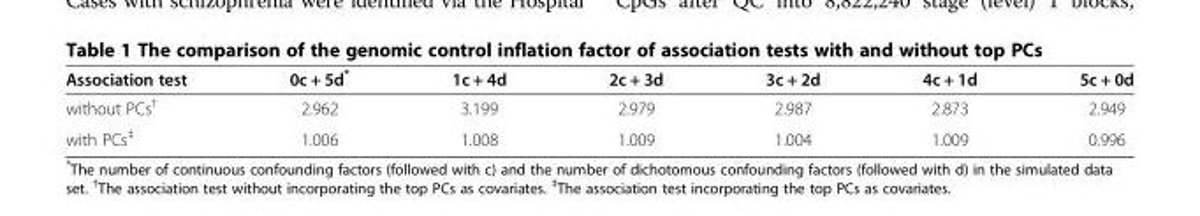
<table><thead><tr><td>Association test</td><td>0c + 5d*</td><td>1c + 4d</td><td>2c + 3d</td><td>3c + 2d</td><td>4c + 1d</td><td>5c + 0d</td></tr></thead><tbody><tr><td>without PCs<sup>†</sup></td><td>2.962</td><td>3.199</td><td>2.979</td><td>2.987</td><td>2.873</td><td>2.949</td></tr><tr><td>with PCs<sup>‡</sup></td><td>1.006</td><td>1.008</td><td>1.009</td><td>1.004</td><td>1.009</td><td>0.996</td></tr></tbody></table>